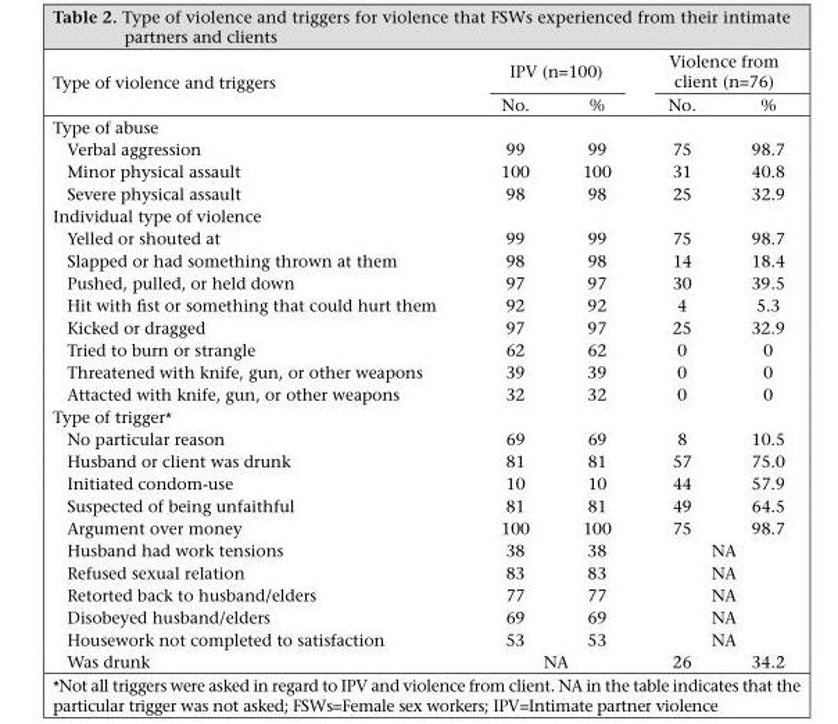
<table><thead><tr><td rowspan="2">Type of violence and triggers</td><td colspan="2">IPV (n=100)</td><td colspan="2">Violence from client (n=76)</td></tr><tr><td>No.</td><td>%</td><td>No.</td><td>%</td></tr></thead><tbody><tr><td colspan="5">Type of abuse</td></tr><tr><td>Verbal aggression</td><td>99</td><td>99</td><td>75</td><td>98.7</td></tr><tr><td>Minor physical assault</td><td>100</td><td>100</td><td>31</td><td>40.8</td></tr><tr><td>Severe physical assault</td><td>98</td><td>98</td><td>25</td><td>32.9</td></tr><tr><td colspan="5">Individual type of violence</td></tr><tr><td>Yelled or shouted at</td><td>99</td><td>99</td><td>75</td><td>98.7</td></tr><tr><td>Slapped or had something thrown at them</td><td>98</td><td>98</td><td>14</td><td>18.4</td></tr><tr><td>Pushed, pulled, or held down</td><td>97</td><td>97</td><td>30</td><td>39.5</td></tr><tr><td>Hit with fist or something that could hurt them</td><td>92</td><td>92</td><td>4</td><td>5.3</td></tr><tr><td>Kicked or dragged</td><td>97</td><td>97</td><td>25</td><td>32.9</td></tr><tr><td>Tried to burn or strangle</td><td>62</td><td>62</td><td>0</td><td>0</td></tr><tr><td>Threatened with knife, gun, or other weapons</td><td>39</td><td>39</td><td>0</td><td>0</td></tr><tr><td>Attacted with knife, gun, or other weapons</td><td>32</td><td>32</td><td>0</td><td>0</td></tr><tr><td colspan="5">Type of trigger*</td></tr><tr><td>No particular reason</td><td>69</td><td>69</td><td>8</td><td>10.5</td></tr><tr><td>Husband or client was drunk</td><td>81</td><td>81</td><td>57</td><td>75.0</td></tr><tr><td>Initiated condom-use</td><td>10</td><td>10</td><td>44</td><td>57.9</td></tr><tr><td>Suspected of being unfaithful</td><td>81</td><td>81</td><td>49</td><td>64.5</td></tr><tr><td>Argument over money</td><td>100</td><td>100</td><td>75</td><td>98.7</td></tr><tr><td>Husband had work tensions</td><td>38</td><td>38</td><td colspan="2">NA</td></tr><tr><td>Refused sexual relation</td><td>83</td><td>83</td><td colspan="2">NA</td></tr><tr><td>Retorted back to husband/elders</td><td>77</td><td>77</td><td colspan="2">NA</td></tr><tr><td>Disobeyed husband/elders</td><td>69</td><td>69</td><td colspan="2">NA</td></tr><tr><td>Housework not completed to satisfaction</td><td>53</td><td>53</td><td colspan="2">NA</td></tr><tr><td>Was drunk</td><td colspan="2">NA</td><td>26</td><td>34.2</td></tr></tbody></table>